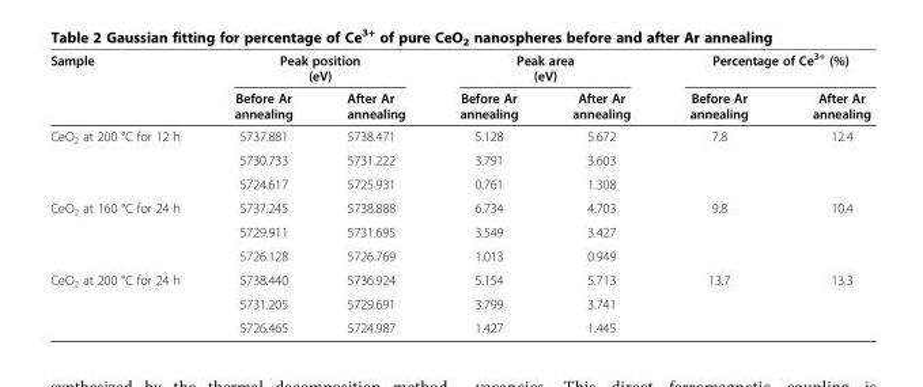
<table><thead><tr><td rowspan="2">Sample</td><td colspan="2">Peak position (eV)</td><td colspan="2">Peak area (eV)</td><td colspan="2">Percentage of Ce<sup>3+</sup> (%)</td></tr><tr><td>Before Ar annealing</td><td>After Ar annealing</td><td>Before Ar annealing</td><td>After Ar annealing</td><td>Before Ar annealing</td><td>After Ar annealing</td></tr></thead><tbody><tr><td rowspan="3">CeO<sub>2</sub> at 200 °C for 12 h</td><td>5737.881</td><td>5738.471</td><td>5.128</td><td>5.672</td><td>7.8</td><td>12.4</td></tr><tr><td>5730.733</td><td>5731.222</td><td>3.791</td><td>3.603</td><td></td><td></td></tr><tr><td>5724.617</td><td>5725.931</td><td>0.761</td><td>1.308</td><td></td><td></td></tr><tr><td rowspan="3">CeO<sub>2</sub> at 160 °C for 24 h</td><td>5737.245</td><td>5738.888</td><td>6.734</td><td>4.703</td><td>9.8</td><td>10.4</td></tr><tr><td>5729.911</td><td>5731.695</td><td>3.549</td><td>3.427</td><td></td><td></td></tr><tr><td>5726.128</td><td>5726.769</td><td>1.013</td><td>0.949</td><td></td><td></td></tr><tr><td rowspan="3">CeO<sub>2</sub> at 200 °C for 24 h</td><td>5738.440</td><td>5736.924</td><td>5.154</td><td>5.713</td><td>13.7</td><td>13.3</td></tr><tr><td>5731.205</td><td>5729.691</td><td>3.799</td><td>3.741</td><td></td><td></td></tr><tr><td>5726.465</td><td>5724.987</td><td>1.427</td><td>1.445</td><td></td><td></td></tr></tbody></table>